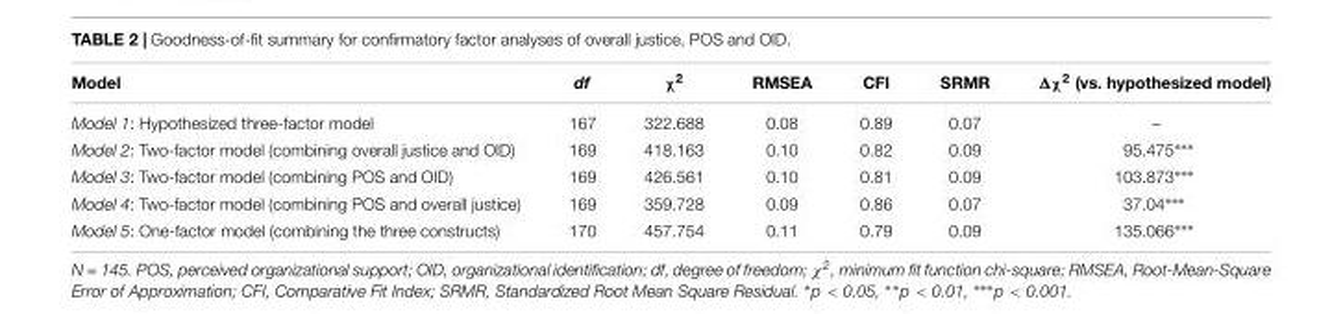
<table><thead><tr><td>Model</td><td>df</td><td>χ<sup>2</sup></td><td>RMSEA</td><td>CFI</td><td>SRMR</td><td>Δχ<sup>2</sup> (vs. hypothesized model)</td></tr></thead><tbody><tr><td>Model 1: Hypothesized three-factor model</td><td>167</td><td>322.688</td><td>0.08</td><td>0.89</td><td>0.07</td><td>–</td></tr><tr><td>Model 2: Two-factor model (combining overall justice and OID)</td><td>169</td><td>418.163</td><td>0.10</td><td>0.82</td><td>0.09</td><td>95.475∗∗∗</td></tr><tr><td>Model 3: Two-factor model (combining POS and OID)</td><td>169</td><td>426.561</td><td>0.10</td><td>0.81</td><td>0.09</td><td>103.873∗∗∗</td></tr><tr><td>Model 4: Two-factor model (combining POS and overall justice)</td><td>169</td><td>359.728</td><td>0.09</td><td>0.86</td><td>0.07</td><td>37.04∗∗∗</td></tr><tr><td>Model 5: One-factor model (combining the three constructs)</td><td>170</td><td>457.754</td><td>0.11</td><td>0.79</td><td>0.09</td><td>135.066∗∗∗</td></tr></tbody></table>